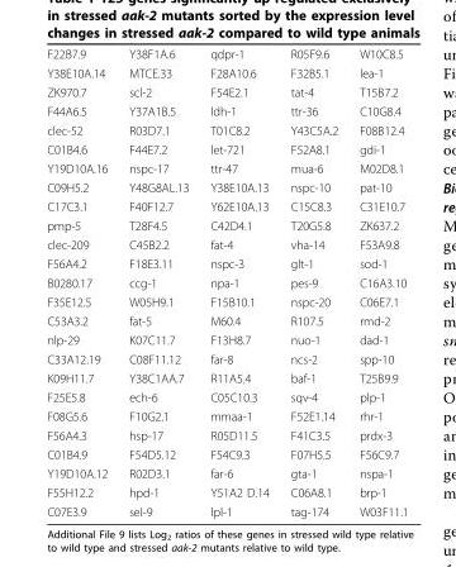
<table><tbody><tr><td>F22B7.9</td><td>Y38F1A.6</td><td>qdpr-1</td><td>R05F9.6</td><td>W10C8.5</td></tr><tr><td>Y38E10A.14</td><td>MTCE.33</td><td>F28A10.6</td><td>F32B5.1</td><td>lea-1</td></tr><tr><td>ZK970.7</td><td>scl-2</td><td>F54E2.1</td><td>tat-4</td><td>T15B7.2</td></tr><tr><td>F44A6.5</td><td>Y37A1B.5</td><td>ldh-1</td><td>ttr-36</td><td>C10G8.4</td></tr><tr><td>clec-52</td><td>R03D7.1</td><td>T01C8.2</td><td>Y43C5A.2</td><td>F08B12.4</td></tr><tr><td>C01B4.6</td><td>F44E7.2</td><td>let-721</td><td>F52A8.1</td><td>gdi-1</td></tr><tr><td>Y19D10A.16</td><td>nspc-17</td><td>ttr-47</td><td>mua-6</td><td>M02D8.1</td></tr><tr><td>C09H5.2</td><td>Y48G8AL.13</td><td>Y38E10A.13</td><td>nspc-10</td><td>pat-10</td></tr><tr><td>C17C3.1</td><td>F40F12.7</td><td>Y62E10A.13</td><td>C15C8.3</td><td>C31E10.7</td></tr><tr><td>pmp-5</td><td>T28F4.5</td><td>C42D4.1</td><td>T20G5.8</td><td>ZK637.2</td></tr><tr><td>clec-209</td><td>C45B2.2</td><td>fat-4</td><td>vha-14</td><td>F53A9.8</td></tr><tr><td>F56A4.2</td><td>F18E3.11</td><td>nspc-3</td><td>glt-1</td><td>sod-1</td></tr><tr><td>B0280.17</td><td>ccg-1</td><td>npa-1</td><td>pes-9</td><td>C16A3.10</td></tr><tr><td>F35E12.5</td><td>W05H9.1</td><td>F15B10.1</td><td>nspc-20</td><td>C06E7.1</td></tr><tr><td>C53A3.2</td><td>fat-5</td><td>M60.4</td><td>R107.5</td><td>rmd-2</td></tr><tr><td>nlp-29</td><td>K07C11.7</td><td>F13H8.7</td><td>nuo-1</td><td>dad-1</td></tr><tr><td>C33A12.19</td><td>C08F11.12</td><td>far-8</td><td>ncs-2</td><td>spp-10</td></tr><tr><td>K09H11.7</td><td>Y38C1AA.7</td><td>R11A5.4</td><td>baf-1</td><td>T25B9.9</td></tr><tr><td>F25E5.8</td><td>ech-6</td><td>C05C10.3</td><td>sqv-4</td><td>plp-1</td></tr><tr><td>F08G5.6</td><td>F10G2.1</td><td>mmaa-1</td><td>F52E1.14</td><td>rhr-1</td></tr><tr><td>F56A4.3</td><td>hsp-17</td><td>R05D11.5</td><td>F41C3.5</td><td>prdx-3</td></tr><tr><td>C01B4.9</td><td>F54D5.12</td><td>F54C9.3</td><td>F07H5.5</td><td>F56C9.7</td></tr><tr><td>Y19D10A.12</td><td>R02D3.1</td><td>far-6</td><td>gta-1</td><td>nspa-1</td></tr><tr><td>F55H12.2</td><td>hpd-1</td><td>Y51A2 D.14</td><td>C06A8.1</td><td>brp-1</td></tr><tr><td>C07E3.9</td><td>sel-9</td><td>lpl-1</td><td>tag-174</td><td>W03F11.1</td></tr></tbody></table>